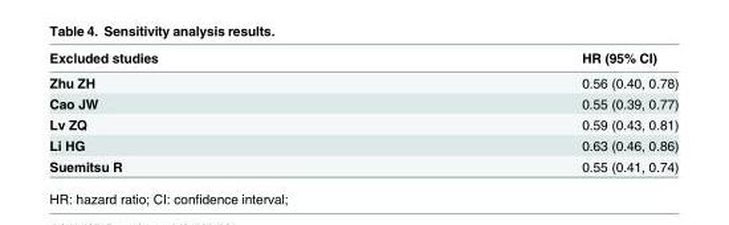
<table><thead><tr><td>Excluded studies</td><td>HR (95% CI)</td></tr></thead><tbody><tr><td>Zhu ZH</td><td>0.56 (0.40, 0.78)</td></tr><tr><td>Cao JW</td><td>0.55 (0.39, 0.77)</td></tr><tr><td>Lv ZQ</td><td>0.59 (0.43, 0.81)</td></tr><tr><td>Li HG</td><td>0.63 (0.46, 0.86)</td></tr><tr><td>Suemitsu R</td><td>0.55 (0.41, 0.74)</td></tr></tbody></table>